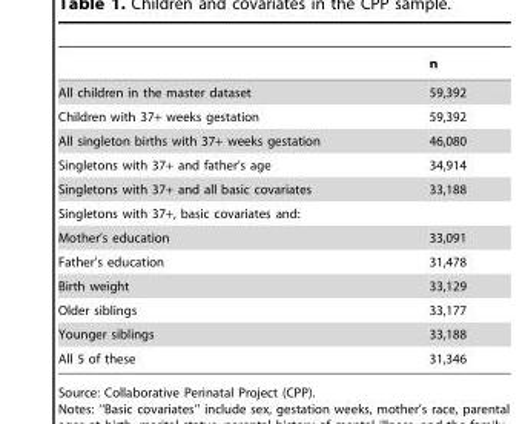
<table><thead><tr><td></td><td>n</td></tr></thead><tbody><tr><td>All children in the master dataset</td><td>59,392</td></tr><tr><td>Children with 37+ weeks gestation</td><td>59,392</td></tr><tr><td>All singleton births with 37+ weeks gestation</td><td>46,080</td></tr><tr><td>Singletons with 37+ and father’s age</td><td>34,914</td></tr><tr><td>Singletons with 37+ and all basic covariates</td><td>33,188</td></tr><tr><td colspan="2">Singletons with 37+, basic covariates and:</td></tr><tr><td>Mother’s education</td><td>33,091</td></tr><tr><td>Father’s education</td><td>31,478</td></tr><tr><td>Birth weight</td><td>33,129</td></tr><tr><td>Older siblings</td><td>33,177</td></tr><tr><td>Younger siblings</td><td>33,188</td></tr><tr><td>All 5 of these</td><td>31,346</td></tr></tbody></table>